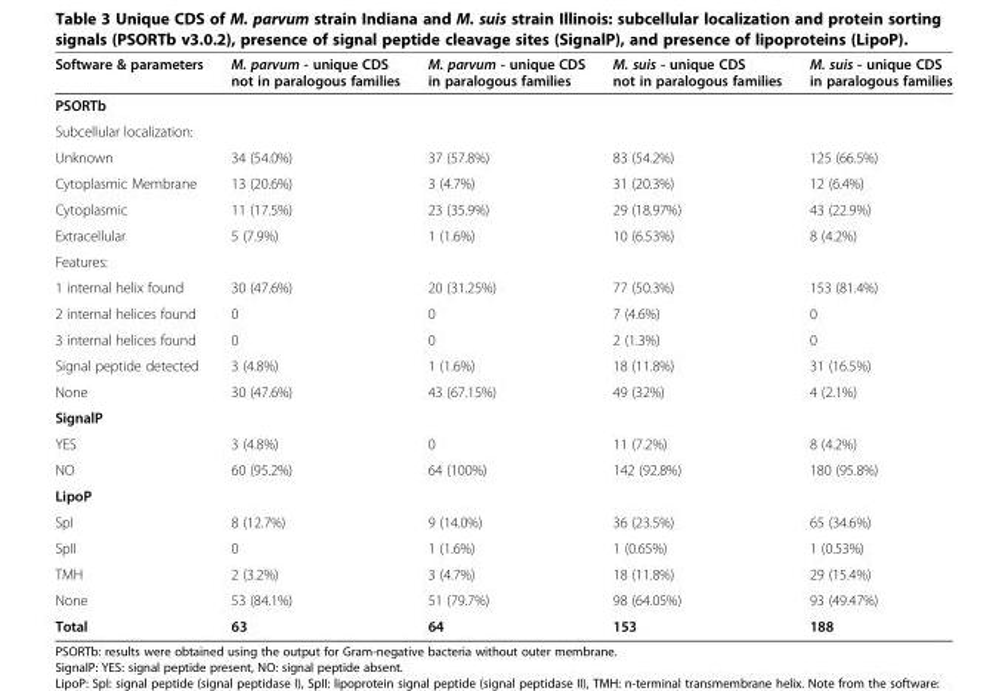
<table><thead><tr><td>Software &amp; parameters</td><td>M. parvum - unique CDS not in paralogous families</td><td>M. parvum - unique CDS in paralogous families</td><td>M. suis - unique CDS not in paralogous families</td><td>M. suis - unique CDS in paralogous families</td></tr></thead><tbody><tr><td colspan="5">PSORTb</td></tr><tr><td colspan="5">Subcellular localization:</td></tr><tr><td>Unknown</td><td>34 (54.0%)</td><td>37 (57.8%)</td><td>83 (54.2%)</td><td>125 (66.5%)</td></tr><tr><td>Cytoplasmic Membrane</td><td>13 (20.6%)</td><td>3 (4.7%)</td><td>31 (20.3%)</td><td>12 (6.4%)</td></tr><tr><td>Cytoplasmic</td><td>11 (17.5%)</td><td>23 (35.9%)</td><td>29 (18.97%)</td><td>43 (22.9%)</td></tr><tr><td>Extracellular</td><td>5 (7.9%)</td><td>1 (1.6%)</td><td>10 (6.53%)</td><td>8 (4.2%)</td></tr><tr><td colspan="5">Features:</td></tr><tr><td>1 internal helix found</td><td>30 (47.6%)</td><td>20 (31.25%)</td><td>77 (50.3%)</td><td>153 (81.4%)</td></tr><tr><td>2 internal helices found</td><td>0</td><td>0</td><td>7 (4.6%)</td><td>0</td></tr><tr><td>3 internal helices found</td><td>0</td><td>0</td><td>2 (1.3%)</td><td>0</td></tr><tr><td>Signal peptide detected</td><td>3 (4.8%)</td><td>1 (1.6%)</td><td>18 (11.8%)</td><td>31 (16.5%)</td></tr><tr><td>None</td><td>30 (47.6%)</td><td>43 (67.15%)</td><td>49 (32%)</td><td>4 (2.1%)</td></tr><tr><td colspan="5">SignalP</td></tr><tr><td>YES</td><td>3 (4.8%)</td><td>0</td><td>11 (7.2%)</td><td>8 (4.2%)</td></tr><tr><td>NO</td><td>60 (95.2%)</td><td>64 (100%)</td><td>142 (92.8%)</td><td>180 (95.8%)</td></tr><tr><td colspan="5">LipoP</td></tr><tr><td>SpI</td><td>8 (12.7%)</td><td>9 (14.0%)</td><td>36 (23.5%)</td><td>65 (34.6%)</td></tr><tr><td>SpII</td><td>0</td><td>1 (1.6%)</td><td>1 (0.65%)</td><td>1 (0.53%)</td></tr><tr><td>TMH</td><td>2 (3.2%)</td><td>3 (4.7%)</td><td>18 (11.8%)</td><td>29 (15.4%)</td></tr><tr><td>None</td><td>53 (84.1%)</td><td>51 (79.7%)</td><td>98 (64.05%)</td><td>93 (49.47%)</td></tr><tr><td>Total</td><td>63</td><td>64</td><td>153</td><td>188</td></tr></tbody></table>